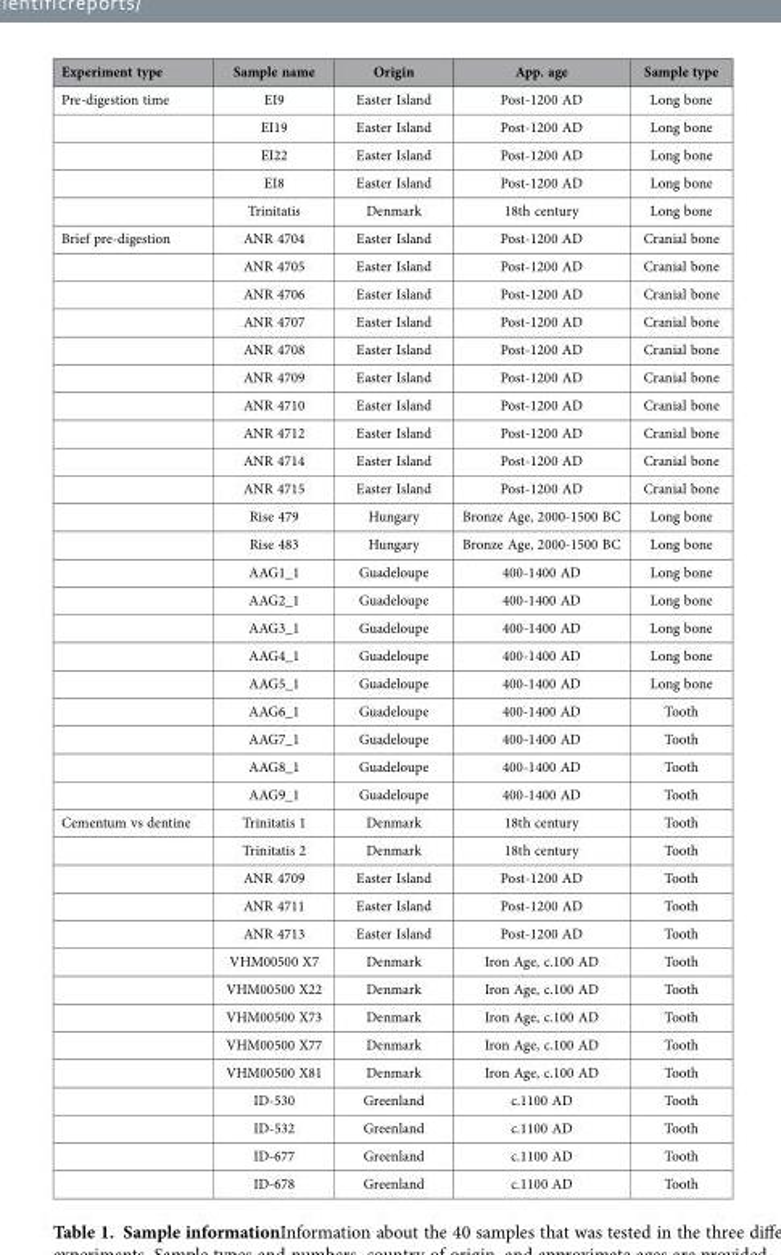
<table><thead><tr><td>Experiment type</td><td>Sample name</td><td>Origin</td><td>App. age</td><td>Sample type</td></tr></thead><tbody><tr><td rowspan="5">Pre-digestion time</td><td>EI9</td><td>Easter Island</td><td>Post-1200 AD</td><td>Long bone</td></tr><tr><td>EI19</td><td>Easter Island</td><td>Post-1200 AD</td><td>Long bone</td></tr><tr><td>EI22</td><td>Easter Island</td><td>Post-1200 AD</td><td>Long bone</td></tr><tr><td>EI8</td><td>Easter Island</td><td>Post-1200 AD</td><td>Long bone</td></tr><tr><td>Trinitatis</td><td>Denmark</td><td>18th century</td><td>Long bone</td></tr><tr><td rowspan="21">Brief pre-digestion</td><td>ANR 4704</td><td>Easter Island</td><td>Post-1200 AD</td><td>Cranial bone</td></tr><tr><td>ANR 4705</td><td>Easter Island</td><td>Post-1200 AD</td><td>Cranial bone</td></tr><tr><td>ANR 4706</td><td>Easter Island</td><td>Post-1200 AD</td><td>Cranial bone</td></tr><tr><td>ANR 4707</td><td>Easter Island</td><td>Post-1200 AD</td><td>Cranial bone</td></tr><tr><td>ANR 4708</td><td>Easter Island</td><td>Post-1200 AD</td><td>Cranial bone</td></tr><tr><td>ANR 4709</td><td>Easter Island</td><td>Post-1200 AD</td><td>Cranial bone</td></tr><tr><td>ANR 4710</td><td>Easter Island</td><td>Post-1200 AD</td><td>Cranial bone</td></tr><tr><td>ANR 4712</td><td>Easter Island</td><td>Post-1200 AD</td><td>Cranial bone</td></tr><tr><td>ANR 4714</td><td>Easter Island</td><td>Post-1200 AD</td><td>Cranial bone</td></tr><tr><td>ANR 4715</td><td>Easter Island</td><td>Post-1200 AD</td><td>Cranial bone</td></tr><tr><td>Rise 479</td><td>Hungary</td><td>Bronze Age, 2000-1500 BC</td><td>Long bone</td></tr><tr><td>Rise 483</td><td>Hungary</td><td>Bronze Age, 2000-1500 BC</td><td>Long bone</td></tr><tr><td>AAG1_1</td><td>Guadeloupe</td><td>400-1400 AD</td><td>Long bone</td></tr><tr><td>AAG2_1</td><td>Guadeloupe</td><td>400-1400 AD</td><td>Long bone</td></tr><tr><td>AAG3_1</td><td>Guadeloupe</td><td>400-1400 AD</td><td>Long bone</td></tr><tr><td>AAG4_1</td><td>Guadeloupe</td><td>400-1400 AD</td><td>Long bone</td></tr><tr><td>AAG5_1</td><td>Guadeloupe</td><td>400-1400 AD</td><td>Long bone</td></tr><tr><td>AAG6_1</td><td>Guadeloupe</td><td>400-1400 AD</td><td>Tooth</td></tr><tr><td>AAG7_1</td><td>Guadeloupe</td><td>400-1400 AD</td><td>Tooth</td></tr><tr><td>AAG8_1</td><td>Guadeloupe</td><td>400-1400 AD</td><td>Tooth</td></tr><tr><td>AAG9_1</td><td>Guadeloupe</td><td>400-1400 AD</td><td>Tooth</td></tr><tr><td rowspan="14">Cementum vs dentine</td><td>Trinitatis 1</td><td>Denmark</td><td>18th century</td><td>Tooth</td></tr><tr><td>Trinitatis 2</td><td>Denmark</td><td>18th century</td><td>Tooth</td></tr><tr><td>ANR 4709</td><td>Easter Island</td><td>Post-1200 AD</td><td>Tooth</td></tr><tr><td>ANR 4711</td><td>Easter Island</td><td>Post-1200 AD</td><td>Tooth</td></tr><tr><td>ANR 4713</td><td>Easter Island</td><td>Post-1200 AD</td><td>Tooth</td></tr><tr><td>VHM00500 X7</td><td>Denmark</td><td>Iron Age, c.100 AD</td><td>Tooth</td></tr><tr><td>VHM00500 X22</td><td>Denmark</td><td>Iron Age, c.100 AD</td><td>Tooth</td></tr><tr><td>VHM00500 X73</td><td>Denmark</td><td>Iron Age, c.100 AD</td><td>Tooth</td></tr><tr><td>VHM00500 X77</td><td>Denmark</td><td>Iron Age, c.100 AD</td><td>Tooth</td></tr><tr><td>VHM00500 X81</td><td>Denmark</td><td>Iron Age, c.100 AD</td><td>Tooth</td></tr><tr><td>ID-530</td><td>Greenland</td><td>c.1100 AD</td><td>Tooth</td></tr><tr><td>ID-532</td><td>Greenland</td><td>c.1100 AD</td><td>Tooth</td></tr><tr><td>ID-677</td><td>Greenland</td><td>c.1100 AD</td><td>Tooth</td></tr><tr><td>ID-678</td><td>Greenland</td><td>c.1100 AD</td><td>Tooth</td></tr></tbody></table>